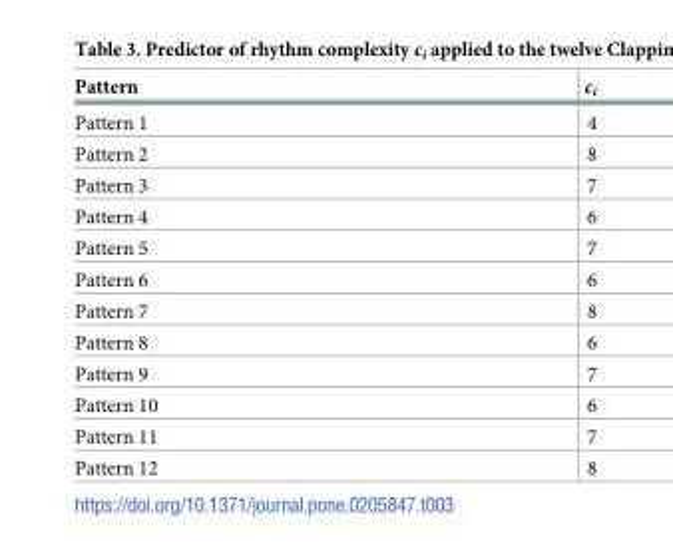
<table><thead><tr><td>Pattern</td><td>c<sub>i</sub></td></tr></thead><tbody><tr><td>Pattern 1</td><td>4</td></tr><tr><td>Pattern 2</td><td>8</td></tr><tr><td>Pattern 3</td><td>7</td></tr><tr><td>Pattern 4</td><td>6</td></tr><tr><td>Pattern 5</td><td>7</td></tr><tr><td>Pattern 6</td><td>6</td></tr><tr><td>Pattern 7</td><td>8</td></tr><tr><td>Pattern 8</td><td>6</td></tr><tr><td>Pattern 9</td><td>7</td></tr><tr><td>Pattern 10</td><td>6</td></tr><tr><td>Pattern 11</td><td>7</td></tr><tr><td>Pattern 12</td><td>8</td></tr></tbody></table>